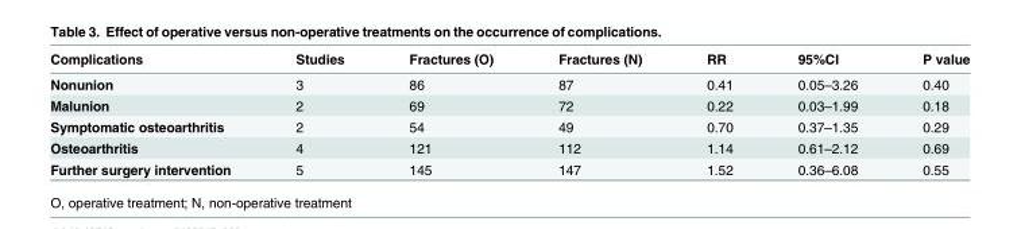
<table><thead><tr><td>Complications</td><td>Studies</td><td>Fractures (O)</td><td>Fractures (N)</td><td>RR</td><td>95%CI</td><td>P value</td></tr></thead><tbody><tr><td>Nonunion</td><td>3</td><td>86</td><td>87</td><td>0.41</td><td>0.05–3.26</td><td>0.40</td></tr><tr><td>Malunion</td><td>2</td><td>69</td><td>72</td><td>0.22</td><td>0.03–1.99</td><td>0.18</td></tr><tr><td>Symptomatic osteoarthritis</td><td>2</td><td>54</td><td>49</td><td>0.70</td><td>0.37–1.35</td><td>0.29</td></tr><tr><td>Osteoarthritis</td><td>4</td><td>121</td><td>112</td><td>1.14</td><td>0.61–2.12</td><td>0.69</td></tr><tr><td>Further surgery intervention</td><td>5</td><td>145</td><td>147</td><td>1.52</td><td>0.36–6.08</td><td>0.55</td></tr></tbody></table>